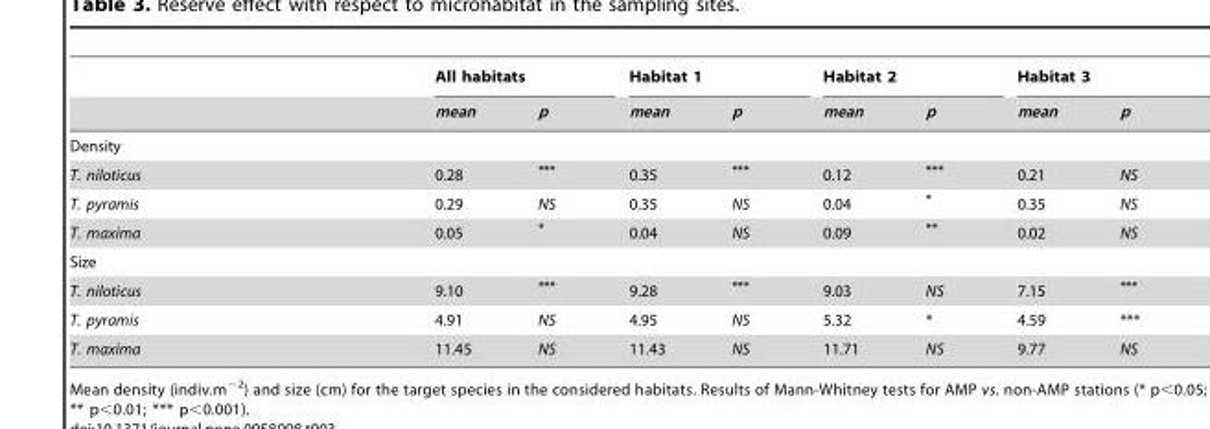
<table><thead><tr><td rowspan="2"></td><td colspan="2">All habitats</td><td colspan="2">Habitat 1</td><td colspan="2">Habitat 2</td><td colspan="2">Habitat 3</td></tr><tr><td>mean</td><td>p</td><td>mean</td><td>p</td><td>mean</td><td>p</td><td>mean</td><td>p</td></tr></thead><tbody><tr><td colspan="9">Density</td></tr><tr><td>T. niloticus</td><td>0.28</td><td>***</td><td>0.35</td><td>***</td><td>0.12</td><td>***</td><td>0.21</td><td>NS</td></tr><tr><td>T. pyramis</td><td>0.29</td><td>NS</td><td>0.35</td><td>NS</td><td>0.04</td><td>*</td><td>0.35</td><td>NS</td></tr><tr><td>T. maxima</td><td>0.05</td><td>*</td><td>0.04</td><td>NS</td><td>0.09</td><td>**</td><td>0.02</td><td>NS</td></tr><tr><td colspan="9">Size</td></tr><tr><td>T. niloticus</td><td>9.10</td><td>***</td><td>9.28</td><td>***</td><td>9.03</td><td>NS</td><td>7.15</td><td>***</td></tr><tr><td>T. pyramis</td><td>4.91</td><td>NS</td><td>4.95</td><td>NS</td><td>5.32</td><td>*</td><td>4.59</td><td>***</td></tr><tr><td>T. maxima</td><td>11.45</td><td>NS</td><td>11.43</td><td>NS</td><td>11.71</td><td>NS</td><td>9.77</td><td>NS</td></tr></tbody></table>